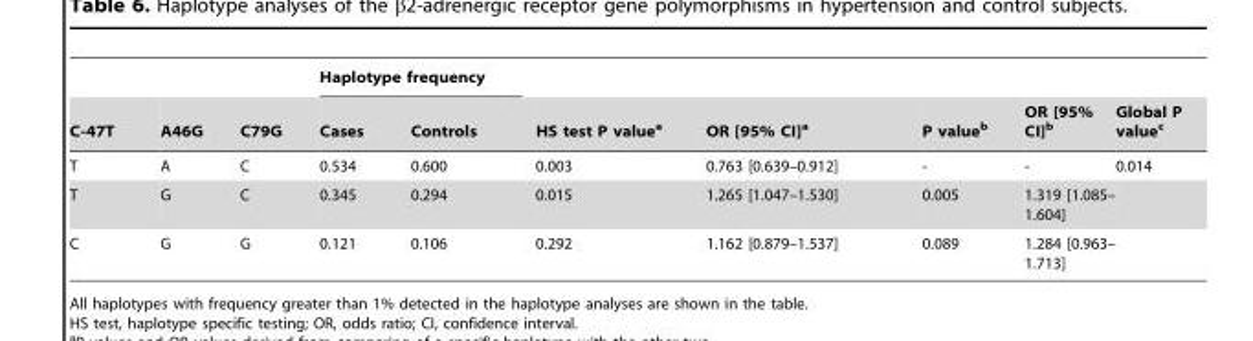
<table><thead><tr><td rowspan="2">C-47T</td><td rowspan="2">A46G</td><td rowspan="2">C79G</td><td colspan="2">Haplotype frequency</td><td rowspan="2">HS test P value<sup>a</sup></td><td rowspan="2">OR [95% CI]<sup>a</sup></td><td rowspan="2">P value<sup>b</sup></td><td rowspan="2">OR [95% CI]<sup>b</sup></td><td rowspan="2">Global P value<sup>c</sup></td></tr><tr><td>Cases</td><td>Controls</td></tr></thead><tbody><tr><td>T</td><td>A</td><td>C</td><td>0.534</td><td>0.600</td><td>0.003</td><td>0.763 [0.639–0.912]</td><td>-</td><td>-</td><td>0.014</td></tr><tr><td>T</td><td>G</td><td>C</td><td>0.345</td><td>0.294</td><td>0.015</td><td>1.265 [1.047–1.530]</td><td>0.005</td><td>1.319 [1.085– 1.604]</td><td></td></tr><tr><td>C</td><td>G</td><td>G</td><td>0.121</td><td>0.106</td><td>0.292</td><td>1.162 [0.879–1.537]</td><td>0.089</td><td>1.284 [0.963– 1.713]</td><td></td></tr></tbody></table>